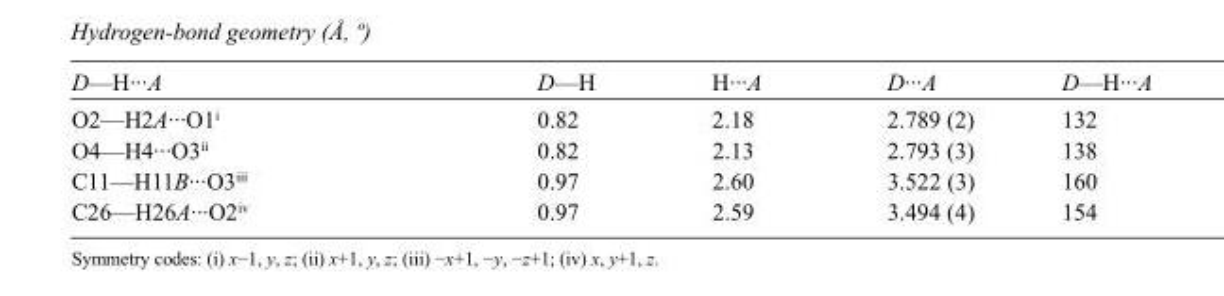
<table><tbody><tr><td>D—H···A</td><td>D—H</td><td>H···A</td><td>D···A</td><td>D—H···A</td></tr><tr><td>O2—H2A···O1<sup>i</sup></td><td>0.82</td><td>2.18</td><td>2.789 (2)</td><td>132</td></tr><tr><td>O4—H4···O3<sup>ii</sup></td><td>0.82</td><td>2.13</td><td>2.793 (3)</td><td>138</td></tr><tr><td>C11—H11B···O3<sup>iii</sup></td><td>0.97</td><td>2.60</td><td>3.522 (3)</td><td>160</td></tr><tr><td>C26—H26A···O2<sup>iv</sup></td><td>0.97</td><td>2.59</td><td>3.494 (4)</td><td>154</td></tr></tbody></table>